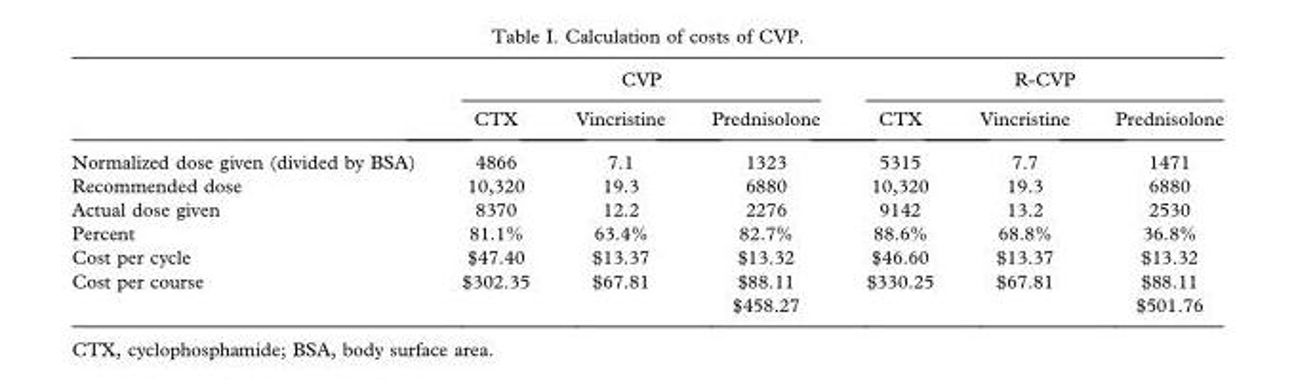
<table><thead><tr><td rowspan="2"></td><td colspan="3">CVP</td><td colspan="3">R-CVP</td></tr><tr><td>CTX</td><td>Vincristine</td><td>Prednisolone</td><td>CTX</td><td>Vincristine</td><td>Prednisolone</td></tr></thead><tbody><tr><td>Normalized dose given (divided by BSA)</td><td>4866</td><td>7.1</td><td>1323</td><td>5315</td><td>7.7</td><td>1471</td></tr><tr><td>Recommended dose</td><td>10,320</td><td>19.3</td><td>6880</td><td>10,320</td><td>19.3</td><td>6880</td></tr><tr><td>Actual dose given</td><td>8370</td><td>12.2</td><td>2276</td><td>9142</td><td>13.2</td><td>2530</td></tr><tr><td>Percent</td><td>81.1%</td><td>63.4%</td><td>82.7%</td><td>88.6%</td><td>68.8%</td><td>36.8%</td></tr><tr><td>Cost per cycle</td><td>$47.40</td><td>$13.37</td><td>$13.32</td><td>$46.60</td><td>$13.37</td><td>$13.32</td></tr><tr><td rowspan="2">Cost per course</td><td>$302.35</td><td>$67.81</td><td>$88.11</td><td>$330.25</td><td>$67.81</td><td>$88.11</td></tr><tr><td></td><td></td><td>$458.27</td><td></td><td></td><td>$501.76</td></tr></tbody></table>